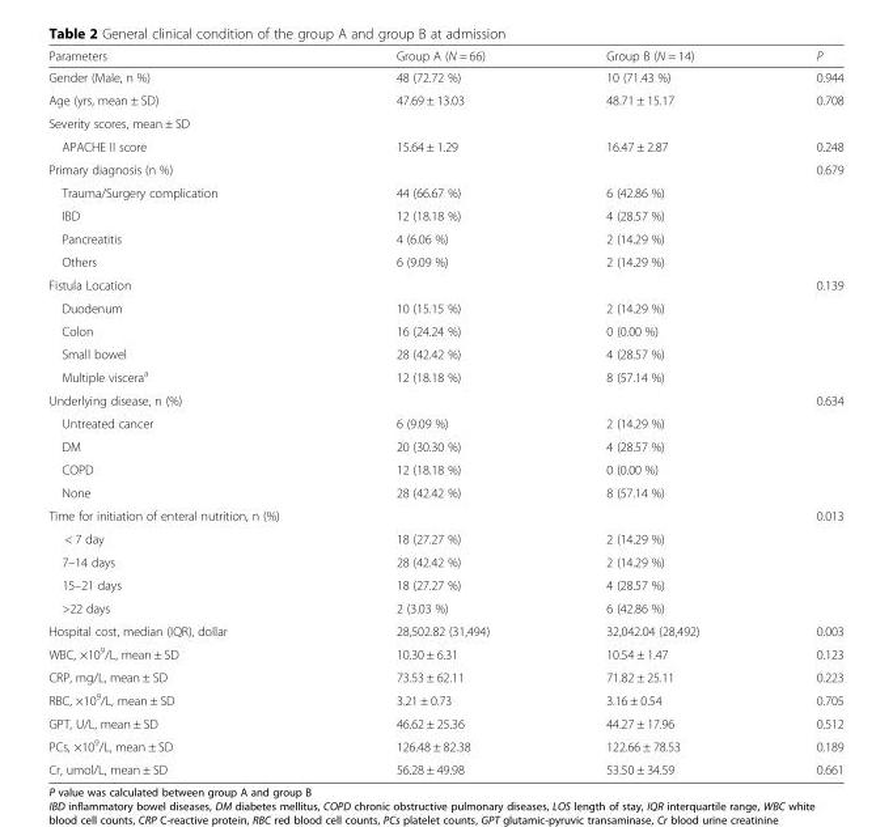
<table><thead><tr><td>Parameters</td><td>Group A (N = 66)</td><td>Group B (N = 14)</td><td>P</td></tr></thead><tbody><tr><td>Gender (Male, n %)</td><td>48 (72.72 %)</td><td>10 (71.43 %)</td><td>0.944</td></tr><tr><td>Age (yrs, mean ± SD)</td><td>47.69 ± 13.03</td><td>48.71 ± 15.17</td><td>0.708</td></tr><tr><td colspan="4">Severity scores, mean ± SD</td></tr><tr><td>APACHE II score</td><td>15.64 ± 1.29</td><td>16.47 ± 2.87</td><td>0.248</td></tr><tr><td>Primary diagnosis (n %)</td><td></td><td></td><td>0.679</td></tr><tr><td>Trauma/Surgery complication</td><td>44 (66.67 %)</td><td>6 (42.86 %)</td><td></td></tr><tr><td>IBD</td><td>12 (18.18 %)</td><td>4 (28.57 %)</td><td></td></tr><tr><td>Pancreatitis</td><td>4 (6.06 %)</td><td>2 (14.29 %)</td><td></td></tr><tr><td>Others</td><td>6 (9.09 %)</td><td>2 (14.29 %)</td><td></td></tr><tr><td>Fistula Location</td><td></td><td></td><td>0.139</td></tr><tr><td>Duodenum</td><td>10 (15.15 %)</td><td>2 (14.29 %)</td><td></td></tr><tr><td>Colon</td><td>16 (24.24 %)</td><td>0 (0.00 %)</td><td></td></tr><tr><td>Small bowel</td><td>28 (42.42 %)</td><td>4 (28.57 %)</td><td></td></tr><tr><td>Multiple viscera<sup>a</sup></td><td>12 (18.18 %)</td><td>8 (57.14 %)</td><td></td></tr><tr><td>Underlying disease, n (%)</td><td></td><td></td><td>0.634</td></tr><tr><td>Untreated cancer</td><td>6 (9.09 %)</td><td>2 (14.29 %)</td><td></td></tr><tr><td>DM</td><td>20 (30.30 %)</td><td>4 (28.57 %)</td><td></td></tr><tr><td>COPD</td><td>12 (18.18 %)</td><td>0 (0.00 %)</td><td></td></tr><tr><td>None</td><td>28 (42.42 %)</td><td>8 (57.14 %)</td><td></td></tr><tr><td>Time for initiation of enteral nutrition, n (%)</td><td></td><td></td><td>0.013</td></tr><tr><td>&lt; 7 day</td><td>18 (27.27 %)</td><td>2 (14.29 %)</td><td></td></tr><tr><td>7–14 days</td><td>28 (42.42 %)</td><td>2 (14.29 %)</td><td></td></tr><tr><td>15–21 days</td><td>18 (27.27 %)</td><td>4 (28.57 %)</td><td></td></tr><tr><td>&gt;22 days</td><td>2 (3.03 %)</td><td>6 (42.86 %)</td><td></td></tr><tr><td>Hospital cost, median (IQR), dollar</td><td>28,502.82 (31,494)</td><td>32,042.04 (28,492)</td><td>0.003</td></tr><tr><td>WBC, ×10<sup>9</sup>/L, mean ± SD</td><td>10.30 ± 6.31</td><td>10.54 ± 1.47</td><td>0.123</td></tr><tr><td>CRP, mg/L, mean ± SD</td><td>73.53 ± 62.11</td><td>71.82 ± 25.11</td><td>0.223</td></tr><tr><td>RBC, ×10<sup>9</sup>/L, mean ± SD</td><td>3.21 ± 0.73</td><td>3.16 ± 0.54</td><td>0.705</td></tr><tr><td>GPT, U/L, mean ± SD</td><td>46.62 ± 25.36</td><td>44.27 ± 17.96</td><td>0.512</td></tr><tr><td>PCs, ×10<sup>9</sup>/L, mean ± SD</td><td>126.48 ± 82.38</td><td>122.66 ± 78.53</td><td>0.189</td></tr><tr><td>Cr, umol/L, mean ± SD</td><td>56.28 ± 49.98</td><td>53.50 ± 34.59</td><td>0.661</td></tr></tbody></table>